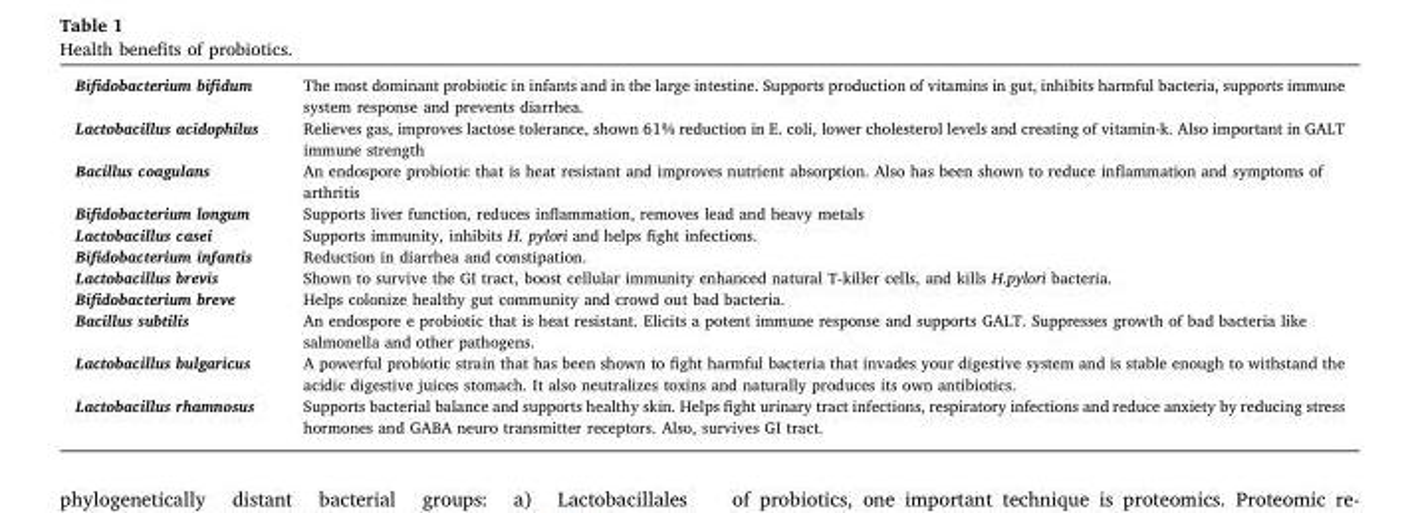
<table><tbody><tr><td>Bifidobacterium bifidum</td><td>The most dominant probiotic in infants and in the large intestine. Supports production of vitamins in gut, inhibits harmful bacteria, supports immune system response and prevents diarrhea.</td></tr><tr><td>Lactobacillus acidophilus</td><td>Relieves gas, improves lactose tolerance, shown 61% reduction in E. coli, lower cholesterol levels and creating of vitamin-k. Also important in GALT immune strength</td></tr><tr><td>Bacillus coagulans</td><td>An endospore probiotic that is heat resistant and improves nutrient absorption. Also has been shown to reduce inflammation and symptoms of arthritis</td></tr><tr><td>Bifidobacterium longum</td><td>Supports liver function, reduces inflammation, removes lead and heavy metals</td></tr><tr><td>Lactobacillus casei</td><td>Supports immunity, inhibits H. pylori and helps fight infections.</td></tr><tr><td>Bifidobacterium infantis</td><td>Reduction in diarrhea and constipation.</td></tr><tr><td>Lactobacillus brevis</td><td>Shown to survive the GI tract, boost cellular immunity enhanced natural T-killer cells, and kills H.pylori bacteria.</td></tr><tr><td>Bifidobacterium breve</td><td>Helps colonize healthy gut community and crowd out bad bacteria.</td></tr><tr><td>Bacillus subtilis</td><td>An endospore e probiotic that is heat resistant. Elicits a potent immune response and supports GALT. Suppresses growth of bad bacteria like salmonella and other pathogens.</td></tr><tr><td>Lactobacillus bulgaricus</td><td>A powerful probiotic strain that has been shown to fight harmful bacteria that invades your digestive system and is stable enough to withstand the acidic digestive juices stomach. It also neutralizes toxins and naturally produces its own antibiotics.</td></tr><tr><td>Lactobacillus rhamnosus</td><td>Supports bacterial balance and supports healthy skin. Helps fight urinary tract infections, respiratory infections and reduce anxiety by reducing stress hormones and GABA neuro transmitter receptors. Also, survives GI tract.</td></tr></tbody></table>